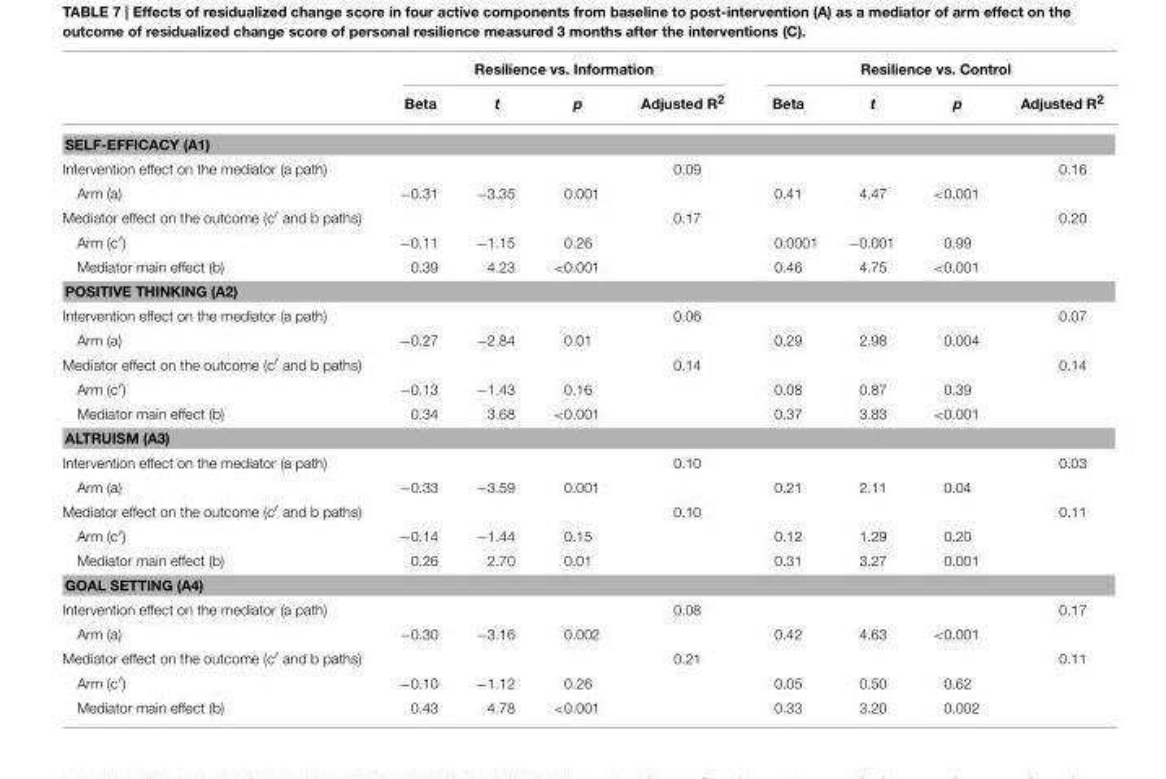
<table><thead><tr><td rowspan="2"></td><td colspan="4">Resilience vs. Information</td><td colspan="4">Resilience vs. Control</td></tr><tr><td>Beta</td><td>t</td><td>p</td><td>Adjusted R<sup>2</sup></td><td>Beta</td><td>t</td><td>p</td><td>Adjusted R<sup>2</sup></td></tr></thead><tbody><tr><td colspan="9">SELF-EFFICACY (A1)</td></tr><tr><td>Intervention effect on the mediator (a path)</td><td></td><td></td><td></td><td>0.09</td><td></td><td></td><td></td><td>0.16</td></tr><tr><td>Arm (a)</td><td>−0.31</td><td>−3.35</td><td>0.001</td><td></td><td>0.41</td><td>4.47</td><td>&lt;0.001</td><td></td></tr><tr><td>Mediator effect on the outcome (c′ and b paths)</td><td></td><td></td><td></td><td>0.17</td><td></td><td></td><td></td><td>0.20</td></tr><tr><td>Arm (c′)</td><td>−0.11</td><td>−1.15</td><td>0.26</td><td></td><td>0.0001</td><td>−0.001</td><td>0.99</td><td></td></tr><tr><td>Mediator main effect (b)</td><td>0.39</td><td>4.23</td><td>&lt;0.001</td><td></td><td>0.46</td><td>4.75</td><td>&lt;0.001</td><td></td></tr><tr><td colspan="9">POSITIVE THINKING (A2)</td></tr><tr><td>Intervention effect on the mediator (a path)</td><td></td><td></td><td></td><td>0.06</td><td></td><td></td><td></td><td>0.07</td></tr><tr><td>Arm (a)</td><td>−0.27</td><td>−2.84</td><td>0.01</td><td></td><td>0.29</td><td>2.98</td><td>0.004</td><td></td></tr><tr><td>Mediator effect on the outcome (c′ and b paths)</td><td></td><td></td><td></td><td>0.14</td><td></td><td></td><td></td><td>0.14</td></tr><tr><td>Arm (c′)</td><td>−0.13</td><td>−1.43</td><td>0.16</td><td></td><td>0.08</td><td>0.87</td><td>0.39</td><td></td></tr><tr><td>Mediator main effect (b)</td><td>0.34</td><td>3.68</td><td>&lt;0.001</td><td></td><td>0.37</td><td>3.83</td><td>&lt;0.001</td><td></td></tr><tr><td colspan="9">ALTRUISM (A3)</td></tr><tr><td>Intervention effect on the mediator (a path)</td><td></td><td></td><td></td><td>0.10</td><td></td><td></td><td></td><td>0.03</td></tr><tr><td>Arm (a)</td><td>−0.33</td><td>−3.59</td><td>0.001</td><td></td><td>0.21</td><td>2.11</td><td>0.04</td><td></td></tr><tr><td>Mediator effect on the outcome (c′ and b paths)</td><td></td><td></td><td></td><td>0.10</td><td></td><td></td><td></td><td>0.11</td></tr><tr><td>Arm (c′)</td><td>−0.14</td><td>−1.44</td><td>0.15</td><td></td><td>0.12</td><td>1.29</td><td>0.20</td><td></td></tr><tr><td>Mediator main effect (b)</td><td>0.26</td><td>2.70</td><td>0.01</td><td></td><td>0.31</td><td>3.27</td><td>0.001</td><td></td></tr><tr><td colspan="9">GOAL SETTING (A4)</td></tr><tr><td>Intervention effect on the mediator (a path)</td><td></td><td></td><td></td><td>0.08</td><td></td><td></td><td></td><td>0.17</td></tr><tr><td>Arm (a)</td><td>−0.30</td><td>−3.16</td><td>0.002</td><td></td><td>0.42</td><td>4.63</td><td>&lt;0.001</td><td></td></tr><tr><td>Mediator effect on the outcome (c′ and b paths)</td><td></td><td></td><td></td><td>0.21</td><td></td><td></td><td></td><td>0.11</td></tr><tr><td>Arm (c′)</td><td>−0.10</td><td>−1.12</td><td>0.26</td><td></td><td>0.05</td><td>0.50</td><td>0.62</td><td></td></tr><tr><td>Mediator main effect (b)</td><td>0.43</td><td>4.78</td><td>&lt;0.001</td><td></td><td>0.33</td><td>3.20</td><td>0.002</td><td></td></tr></tbody></table>